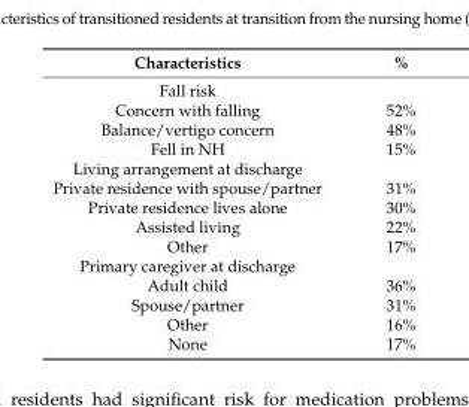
<table><thead><tr><td>Characteristics</td><td>%</td></tr></thead><tbody><tr><td colspan="2">Fall risk</td></tr><tr><td>Concern with falling</td><td>52%</td></tr><tr><td>Balance/vertigo concern</td><td>48%</td></tr><tr><td>Fell in NH</td><td>15%</td></tr><tr><td colspan="2">Living arrangement at discharge</td></tr><tr><td>Private residence with spouse/partner</td><td>31%</td></tr><tr><td>Private residence lives alone</td><td>30%</td></tr><tr><td>Assisted living</td><td>22%</td></tr><tr><td>Other</td><td>17%</td></tr><tr><td colspan="2">Primary caregiver at discharge</td></tr><tr><td>Adult child</td><td>36%</td></tr><tr><td>Spouse/partner</td><td>31%</td></tr><tr><td>Other</td><td>16%</td></tr><tr><td>None</td><td>17%</td></tr></tbody></table>